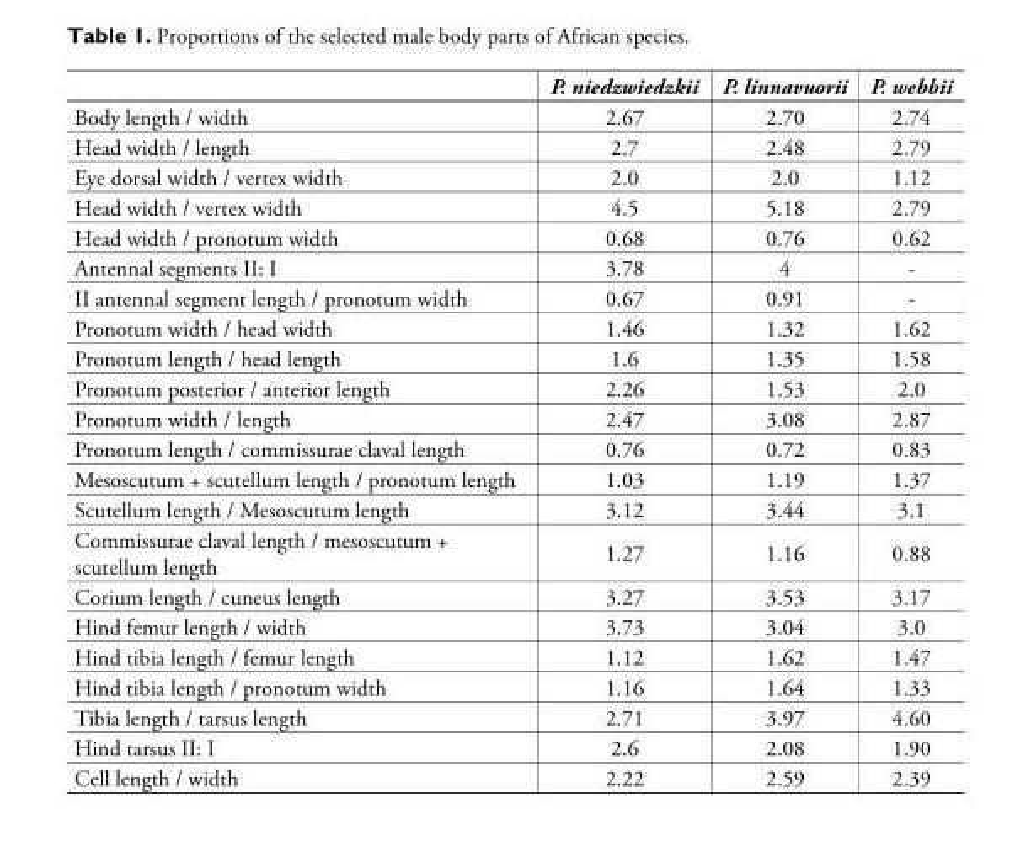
<table><thead><tr><td></td><td>P. niedzwiedzkii</td><td>P. linnavuorii</td><td>P. webbii</td></tr></thead><tbody><tr><td>Body length / width</td><td>2.67</td><td>2.70</td><td>2.74</td></tr><tr><td>Head width / length</td><td>2.7</td><td>2.48</td><td>2.79</td></tr><tr><td>Eye dorsal width / vertex width</td><td>2.0</td><td>2.0</td><td>1.12</td></tr><tr><td>Head width / vertex width</td><td>4.5</td><td>5.18</td><td>2.79</td></tr><tr><td>Head width / pronotum width</td><td>0.68</td><td>0.76</td><td>0.62</td></tr><tr><td>Antennal segments II: I</td><td>3.78</td><td>4</td><td>-</td></tr><tr><td>II antennal segment length / pronotum width</td><td>0.67</td><td>0.91</td><td>-</td></tr><tr><td>Pronotum width / head width</td><td>1.46</td><td>1.32</td><td>1.62</td></tr><tr><td>Pronotum length / head length</td><td>1.6</td><td>1.35</td><td>1.58</td></tr><tr><td>Pronotum posterior / anterior length</td><td>2.26</td><td>1.53</td><td>2.0</td></tr><tr><td>Pronotum width / length</td><td>2.47</td><td>3.08</td><td>2.87</td></tr><tr><td>Pronotum length / commissurae claval length</td><td>0.76</td><td>0.72</td><td>0.83</td></tr><tr><td>Mesoscutum + scutellum length / pronotum length</td><td>1.03</td><td>1.19</td><td>1.37</td></tr><tr><td>Scutellum length / Mesoscutum length</td><td>3.12</td><td>3.44</td><td>3.1</td></tr><tr><td>Commissurae claval length / mesoscutum + scutellum length</td><td>1.27</td><td>1.16</td><td>0.88</td></tr><tr><td>Corium length / cuneus length</td><td>3.27</td><td>3.53</td><td>3.17</td></tr><tr><td>Hind femur length / width</td><td>3.73</td><td>3.04</td><td>3.0</td></tr><tr><td>Hind tibia length / femur length</td><td>1.12</td><td>1.62</td><td>1.47</td></tr><tr><td>Hind tibia length / pronotum width</td><td>1.16</td><td>1.64</td><td>1.33</td></tr><tr><td>Tibia length / tarsus length</td><td>2.71</td><td>3.97</td><td>4.60</td></tr><tr><td>Hind tarsus II: I</td><td>2.6</td><td>2.08</td><td>1.90</td></tr><tr><td>Cell length / width</td><td>2.22</td><td>2.59</td><td>2.39</td></tr></tbody></table>